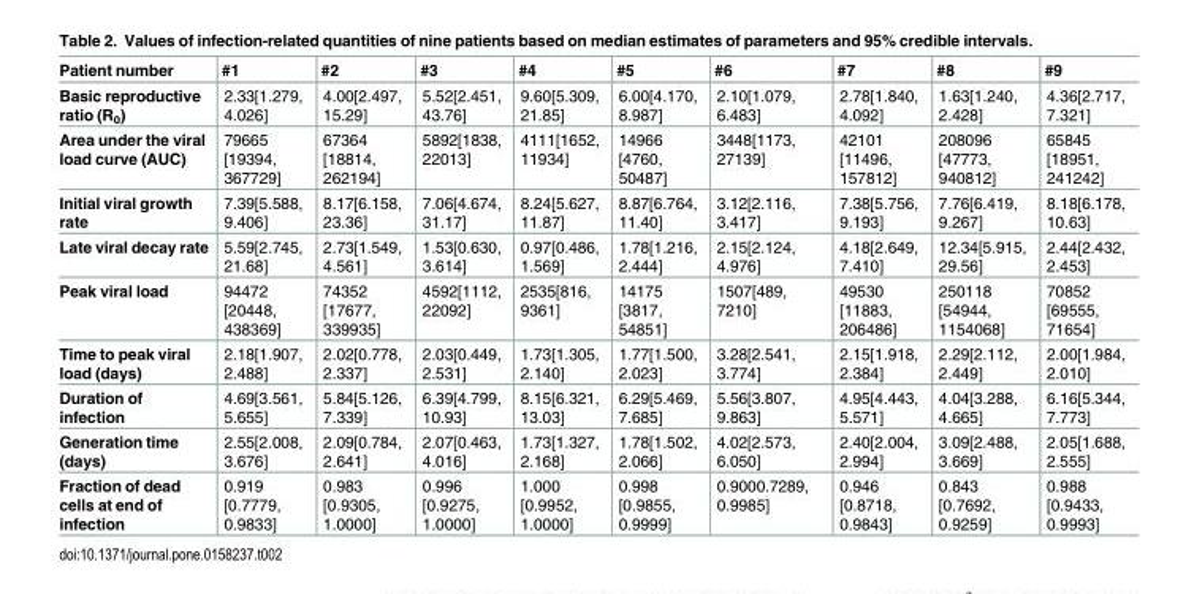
<table><thead><tr><td>Patient number</td><td>#1</td><td>#2</td><td>#3</td><td>#4</td><td>#5</td><td>#6</td><td>#7</td><td>#8</td><td>#9</td></tr></thead><tbody><tr><td>Basic reproductive ratio (R<sub>0</sub>)</td><td>2.33[1.279, 4.026]</td><td>4.00[2.497, 15.29]</td><td>5.52[2.451, 43.76]</td><td>9.60[5.309, 21.85]</td><td>6.00[4.170, 8.987]</td><td>2.10[1.079, 6.483]</td><td>2.78[1.840, 4.092]</td><td>1.63[1.240, 2.428]</td><td>4.36[2.717, 7.321]</td></tr><tr><td>Area under the viral load curve (AUC)</td><td>79665 [19394, 367729]</td><td>67364 [18814, 262194]</td><td>5892[1838, 22013]</td><td>4111[1652, 11934]</td><td>14966 [4760, 50487]</td><td>3448[1173, 27139]</td><td>42101 [11496, 157812]</td><td>208096 [47773, 940812]</td><td>65845 [18951, 241242]</td></tr><tr><td>Initial viral growth rate</td><td>7.39[5.588, 9.406]</td><td>8.17[6.158, 23.36]</td><td>7.06[4.674, 31.17]</td><td>8.24[5.627, 11.87]</td><td>8.87[6.764, 11.40]</td><td>3.12[2.116, 3.417]</td><td>7.38[5.756, 9.193]</td><td>7.76[6.419, 9.267]</td><td>8.18[6.178, 10.63]</td></tr><tr><td>Late viral decay rate</td><td>5.59[2.745, 21.68]</td><td>2.73[1.549, 4.561]</td><td>1.53[0.630, 3.614]</td><td>0.97[0.486, 1.569]</td><td>1.78[1.216, 2.444]</td><td>2.15[2.124, 4.976]</td><td>4.18[2.649, 7.410]</td><td>12.34[5.915, 29.56]</td><td>2.44[2.432, 2.453]</td></tr><tr><td>Peak viral load</td><td>94472 [20448, 438369]</td><td>74352 [17677, 339935]</td><td>4592[1112, 22092]</td><td>2535[816, 9361]</td><td>14175 [3817, 54851]</td><td>1507[489, 7210]</td><td>49530 [11883, 206486]</td><td>250118 [54944, 1154068]</td><td>70852 [69555, 71654]</td></tr><tr><td>Time to peak viral load (days)</td><td>2.18[1.907, 2.488]</td><td>2.02[0.778, 2.337]</td><td>2.03[0.449, 2.531]</td><td>1.73[1.305, 2.140]</td><td>1.77[1.500, 2.023]</td><td>3.28[2.541, 3.774]</td><td>2.15[1.918, 2.384]</td><td>2.29[2.112, 2.449]</td><td>2.00[1.984, 2.010]</td></tr><tr><td>Duration of infection</td><td>4.69[3.561, 5.655]</td><td>5.84[5.126, 7.339]</td><td>6.39[4.799, 10.93]</td><td>8.15[6.321, 13.03]</td><td>6.29[5.469, 7.685]</td><td>5.56[3.807, 9.863]</td><td>4.95[4.443, 5.571]</td><td>4.04[3.288, 4.665]</td><td>6.16[5.344, 7.773]</td></tr><tr><td>Generation time (days)</td><td>2.55[2.008, 3.676]</td><td>2.09[0.784, 2.641]</td><td>2.07[0.463, 4.016]</td><td>1.73[1.327, 2.168]</td><td>1.78[1.502, 2.066]</td><td>4.02[2.573, 6.050]</td><td>2.40[2.004, 2.994]</td><td>3.09[2.488, 3.669]</td><td>2.05[1.688, 2.555]</td></tr><tr><td>Fraction of dead cells at end of infection</td><td>0.919 [0.7779, 0.9833]</td><td>0.983 [0.9305, 1.0000]</td><td>0.996 [0.9275, 1.0000]</td><td>1.000 [0.9952, 1.0000]</td><td>0.998 [0.9855, 0.9999]</td><td>0.9000.7289, 0.9985]</td><td>0.946 [0.8718, 0.9843]</td><td>0.843 [0.7692, 0.9259]</td><td>0.988 [0.9433, 0.9993]</td></tr></tbody></table>